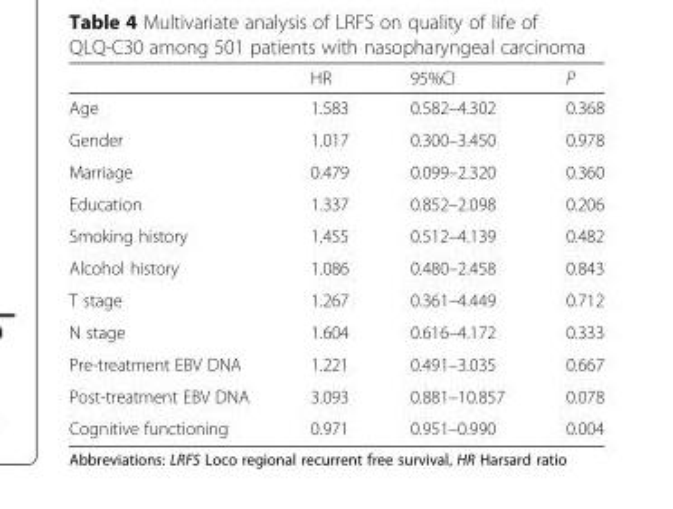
<table><thead><tr><td></td><td>HR</td><td>95%CI</td><td>P</td></tr></thead><tbody><tr><td>Age</td><td>1.583</td><td>0.582–4.302</td><td>0.368</td></tr><tr><td>Gender</td><td>1.017</td><td>0.300–3.450</td><td>0.978</td></tr><tr><td>Marriage</td><td>0.479</td><td>0.099–2.320</td><td>0.360</td></tr><tr><td>Education</td><td>1.337</td><td>0.852–2.098</td><td>0.206</td></tr><tr><td>Smoking history</td><td>1.455</td><td>0.512–4.139</td><td>0.482</td></tr><tr><td>Alcohol history</td><td>1.086</td><td>0.480–2.458</td><td>0.843</td></tr><tr><td>T stage</td><td>1.267</td><td>0.361–4.449</td><td>0.712</td></tr><tr><td>N stage</td><td>1.604</td><td>0.616–4.172</td><td>0.333</td></tr><tr><td>Pre-treatment EBV DNA</td><td>1.221</td><td>0.491–3.035</td><td>0.667</td></tr><tr><td>Post-treatment EBV DNA</td><td>3.093</td><td>0.881–10.857</td><td>0.078</td></tr><tr><td>Cognitive functioning</td><td>0.971</td><td>0.951–0.990</td><td>0.004</td></tr></tbody></table>